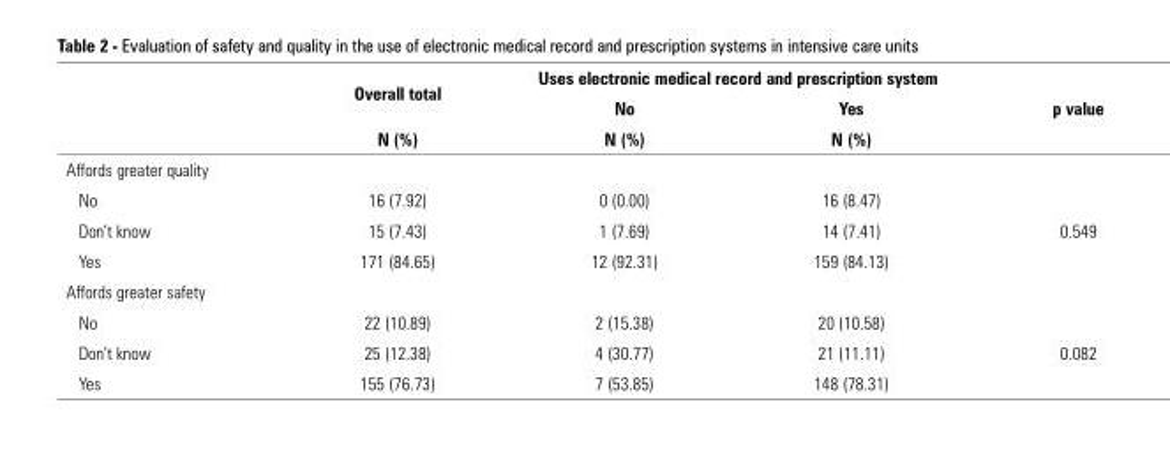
<table><thead><tr><td rowspan="3"></td><td rowspan="3">Overall total N (%)</td><td colspan="2">Uses electronic medical record and prescription system</td><td rowspan="3">p value</td></tr><tr><td rowspan="2">No N (%)</td><td rowspan="2">Yes N (%)</td></tr><tr></tr></thead><tbody><tr><td colspan="5">Affords greater quality</td></tr><tr><td>No</td><td>16 (7.92)</td><td>0 (0.00)</td><td>16 (8.47)</td><td rowspan="3">0.549</td></tr><tr><td>Don’t know</td><td>15 (7.43)</td><td>1 (7.69)</td><td>14 (7.41)</td></tr><tr><td>Yes</td><td>171 (84.65)</td><td>12 (92.31)</td><td>159 (84.13)</td></tr><tr><td colspan="5">Affords greater safety</td></tr><tr><td>No</td><td>22 (10.89)</td><td>2 (15.38)</td><td>20 (10.58)</td><td rowspan="3">0.082</td></tr><tr><td>Don’t know</td><td>25 (12.38)</td><td>4 (30.77)</td><td>21 (11.11)</td></tr><tr><td>Yes</td><td>155 (76.73)</td><td>7 (53.85)</td><td>148 (78.31)</td></tr></tbody></table>